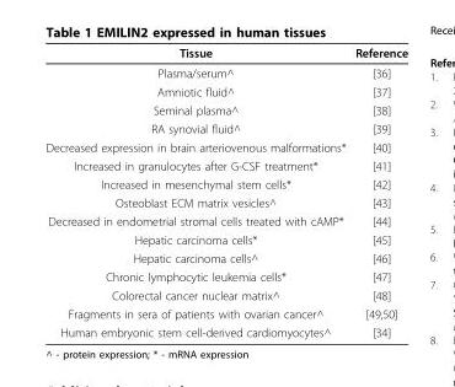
<table><thead><tr><td>Tissue</td><td>Reference</td></tr></thead><tbody><tr><td>Plasma/serum^</td><td>[36]</td></tr><tr><td>Amniotic fluid^</td><td>[37]</td></tr><tr><td>Seminal plasma^</td><td>[38]</td></tr><tr><td>RA synovial fluid^</td><td>[39]</td></tr><tr><td>Decreased expression in brain arteriovenous malformations*</td><td>[40]</td></tr><tr><td>Increased in granulocytes after G-CSF treatment*</td><td>[41]</td></tr><tr><td>Increased in mesenchymal stem cells*</td><td>[42]</td></tr><tr><td>Osteoblast ECM matrix vesicles^</td><td>[43]</td></tr><tr><td>Decreased in endometrial stromal cells treated with cAMP*</td><td>[44]</td></tr><tr><td>Hepatic carcinoma cells*</td><td>[45]</td></tr><tr><td>Hepatic carcinoma cells^</td><td>[46]</td></tr><tr><td>Chronic lymphocytic leukemia cells*</td><td>[47]</td></tr><tr><td>Colorectal cancer nuclear matrix^</td><td>[48]</td></tr><tr><td>Fragments in sera of patients with ovarian cancer^</td><td>[49,50]</td></tr><tr><td>Human embryonic stem cell-derived cardiomyocytes^</td><td>[34]</td></tr></tbody></table>